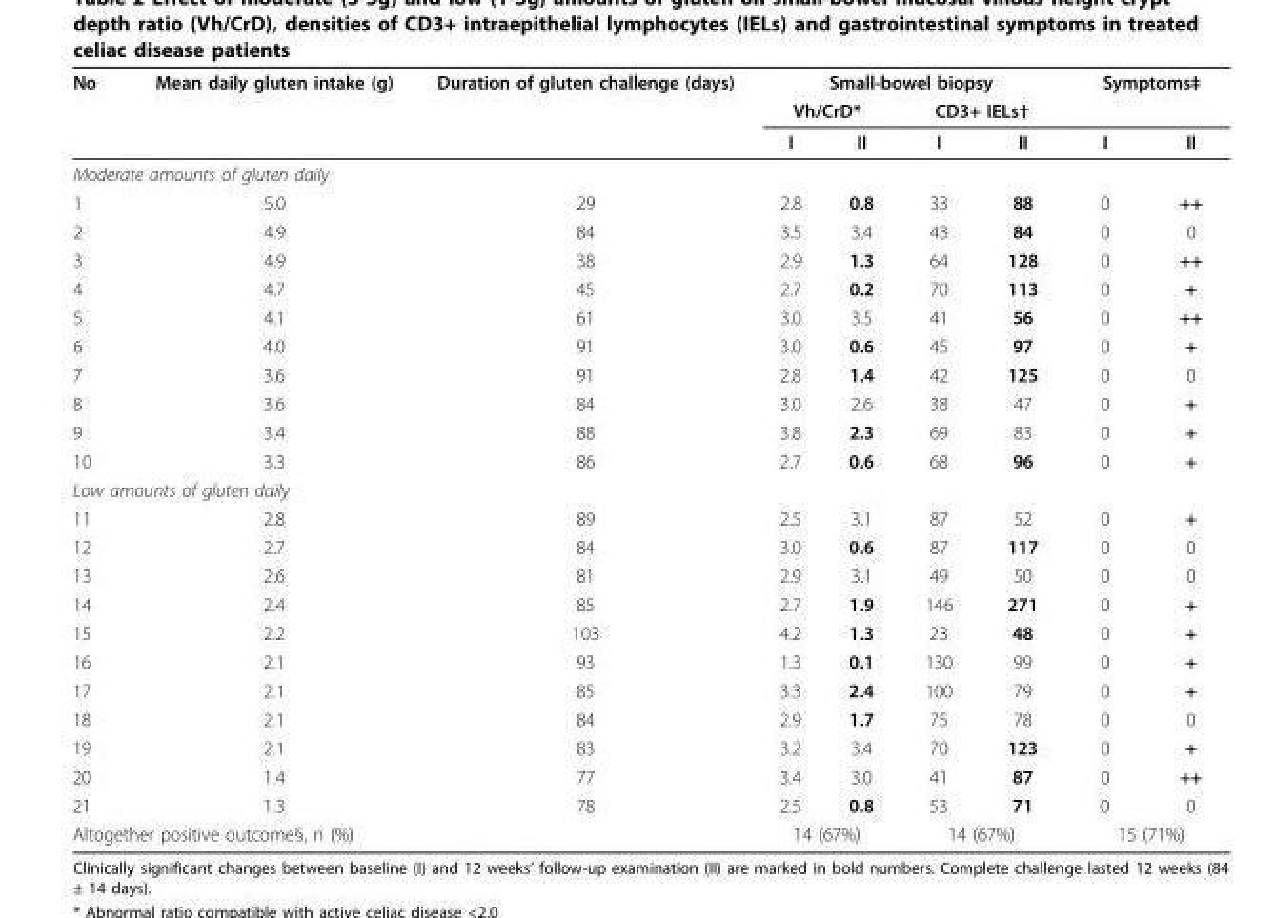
<table><thead><tr><td rowspan="3">No</td><td rowspan="3">Mean daily gluten intake (g)</td><td rowspan="3">Duration of gluten challenge (days)</td><td colspan="4">Small-bowel biopsy</td><td colspan="2">Symptoms‡</td></tr><tr><td colspan="2">Vh/CrD*</td><td colspan="2">CD3+ IELs†</td><td rowspan="2">I</td><td rowspan="2">II</td></tr><tr><td>I</td><td>II</td><td>I</td><td>II</td></tr></thead><tbody><tr><td colspan="9">Moderate amounts of gluten daily</td></tr><tr><td>1</td><td>5.0</td><td>29</td><td>2.8</td><td>0.8</td><td>33</td><td>88</td><td>0</td><td>++</td></tr><tr><td>2</td><td>4.9</td><td>84</td><td>3.5</td><td>3.4</td><td>43</td><td>84</td><td>0</td><td>0</td></tr><tr><td>3</td><td>4.9</td><td>38</td><td>2.9</td><td>1.3</td><td>64</td><td>128</td><td>0</td><td>++</td></tr><tr><td>4</td><td>4.7</td><td>45</td><td>2.7</td><td>0.2</td><td>70</td><td>113</td><td>0</td><td>+</td></tr><tr><td>5</td><td>4.1</td><td>61</td><td>3.0</td><td>3.5</td><td>41</td><td>56</td><td>0</td><td>++</td></tr><tr><td>6</td><td>4.0</td><td>91</td><td>3.0</td><td>0.6</td><td>45</td><td>97</td><td>0</td><td>+</td></tr><tr><td>7</td><td>3.6</td><td>91</td><td>2.8</td><td>1.4</td><td>42</td><td>125</td><td>0</td><td>0</td></tr><tr><td>8</td><td>3.6</td><td>84</td><td>3.0</td><td>2.6</td><td>38</td><td>47</td><td>0</td><td>+</td></tr><tr><td>9</td><td>3.4</td><td>88</td><td>3.8</td><td>2.3</td><td>69</td><td>83</td><td>0</td><td>+</td></tr><tr><td>10</td><td>3.3</td><td>86</td><td>2.7</td><td>0.6</td><td>68</td><td>96</td><td>0</td><td>+</td></tr><tr><td colspan="9">Low amounts of gluten daily</td></tr><tr><td>11</td><td>2.8</td><td>89</td><td>2.5</td><td>3.1</td><td>87</td><td>52</td><td>0</td><td>+</td></tr><tr><td>12</td><td>2.7</td><td>84</td><td>3.0</td><td>0.6</td><td>87</td><td>117</td><td>0</td><td>0</td></tr><tr><td>13</td><td>2.6</td><td>81</td><td>2.9</td><td>3.1</td><td>49</td><td>50</td><td>0</td><td>0</td></tr><tr><td>14</td><td>2.4</td><td>85</td><td>2.7</td><td>1.9</td><td>146</td><td>271</td><td>0</td><td>+</td></tr><tr><td>15</td><td>2.2</td><td>103</td><td>4.2</td><td>1.3</td><td>23</td><td>48</td><td>0</td><td>+</td></tr><tr><td>16</td><td>2.1</td><td>93</td><td>1.3</td><td>0.1</td><td>130</td><td>99</td><td>0</td><td>+</td></tr><tr><td>17</td><td>2.1</td><td>85</td><td>3.3</td><td>2.4</td><td>100</td><td>79</td><td>0</td><td>+</td></tr><tr><td>18</td><td>2.1</td><td>84</td><td>2.9</td><td>1.7</td><td>75</td><td>78</td><td>0</td><td>0</td></tr><tr><td>19</td><td>2.1</td><td>83</td><td>3.2</td><td>3.4</td><td>70</td><td>123</td><td>0</td><td>+</td></tr><tr><td>20</td><td>1.4</td><td>77</td><td>3.4</td><td>3.0</td><td>41</td><td>87</td><td>0</td><td>++</td></tr><tr><td>21</td><td>1.3</td><td>78</td><td>2.5</td><td>0.8</td><td>53</td><td>71</td><td>0</td><td>0</td></tr><tr><td colspan="3">Altogether positive outcome§, n (%)</td><td colspan="2">14 (67%)</td><td colspan="2">14 (67%)</td><td colspan="2">15 (71%)</td></tr></tbody></table>